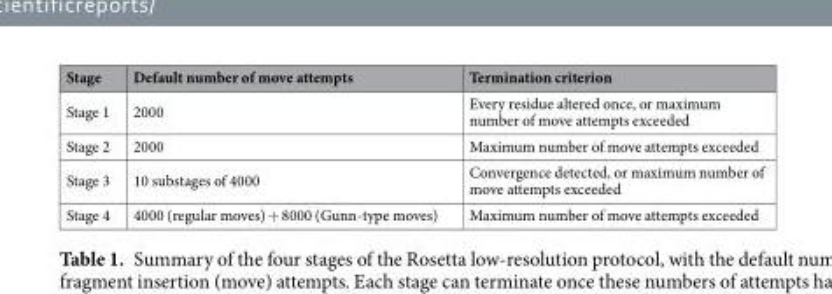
<table><thead><tr><td>Stage</td><td>Default number of move attempts</td><td>Termination criterion</td></tr></thead><tbody><tr><td>Stage 1</td><td>2000</td><td>Every residue altered once, or maximum number of move attempts exceeded</td></tr><tr><td>Stage 2</td><td>2000</td><td>Maximum number of move attempts exceeded</td></tr><tr><td>Stage 3</td><td>10 substages of 4000</td><td>Convergence detected, or maximum number of move attempts exceeded</td></tr><tr><td>Stage 4</td><td>4000 (regular moves) + 8000 (Gunn-type moves)</td><td>Maximum number of move attempts exceeded</td></tr></tbody></table>